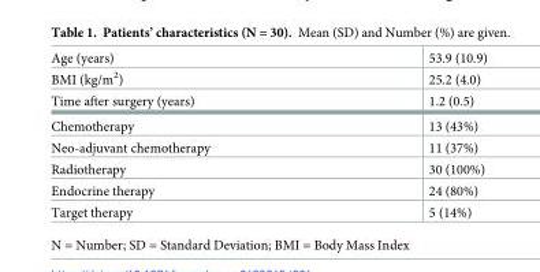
<table><tbody><tr><td>Age (years)</td><td>53.9 (10.9)</td></tr><tr><td>BMI (kg/m<sup>2</sup>)</td><td>25.2 (4.0)</td></tr><tr><td>Time after surgery (years)</td><td>1.2 (0.5)</td></tr><tr><td>Chemotherapy</td><td>13 (43%)</td></tr><tr><td>Neo-adjuvant chemotherapy</td><td>11 (37%)</td></tr><tr><td>Radiotherapy</td><td>30 (100%)</td></tr><tr><td>Endocrine therapy</td><td>24 (80%)</td></tr><tr><td>Target therapy</td><td>5 (14%)</td></tr></tbody></table>